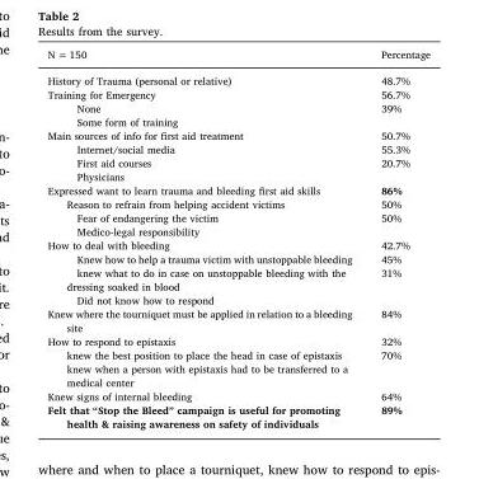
<table><thead><tr><td>N = 150</td><td>Percentage</td></tr></thead><tbody><tr><td>History of Trauma (personal or relative)</td><td>48.7%</td></tr><tr><td>Training for Emergency None Some form of training</td><td>56.7% 39%</td></tr><tr><td>Main sources of info for first aid treatment Internet/social media First aid courses Physicians</td><td>50.7% 55.3% 20.7%</td></tr><tr><td>Expressed want to learn trauma and bleeding first aid skills Reason to refrain from helping accident victims Fear of endangering the victim Medico-legal responsibility</td><td>86% 50% 50%</td></tr><tr><td>How to deal with bleeding Knew how to help a trauma victim with unstoppable bleeding knew what to do in case on unstoppable bleeding with the dressing soaked in blood Did not know how to respond</td><td>42.7% 45% 31%</td></tr><tr><td>Knew where the tourniquet must be applied in relation to a bleeding site</td><td>84%</td></tr><tr><td>How to respond to epistaxis knew the best position to place the head in case of epistaxis knew when a person with epistaxis had to be transferred to a medical center</td><td>32% 70%</td></tr><tr><td>Knew signs of internal bleeding</td><td>64%</td></tr><tr><td>Felt that “Stop the Bleed” campaign is useful for promoting health &amp; raising awareness on safety of individuals</td><td>89%</td></tr></tbody></table>